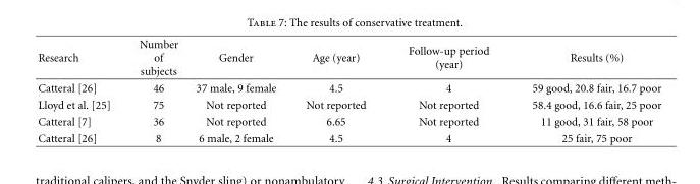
<table><thead><tr><td>Research</td><td>Number of subjects</td><td>Gender</td><td>Age (year)</td><td>Follow-up period (year)</td><td>Results (%)</td></tr></thead><tbody><tr><td>Catteral [26]</td><td>46</td><td>37 male, 9 female</td><td>4.5</td><td>4</td><td>59 good, 20.8 fair, 16.7 poor</td></tr><tr><td>Lloyd et al. [25]</td><td>75</td><td>Not reported</td><td>Not reported</td><td>Not reported</td><td>58.4 good, 16.6 fair, 25 poor</td></tr><tr><td>Catteral [7]</td><td>36</td><td>Not reported</td><td>6.65</td><td>Not reported</td><td>11 good, 31 fair, 58 poor</td></tr><tr><td>Catteral [26]</td><td>8</td><td>6 male, 2 female</td><td>4.5</td><td>4</td><td>25 fair, 75 poor</td></tr></tbody></table>